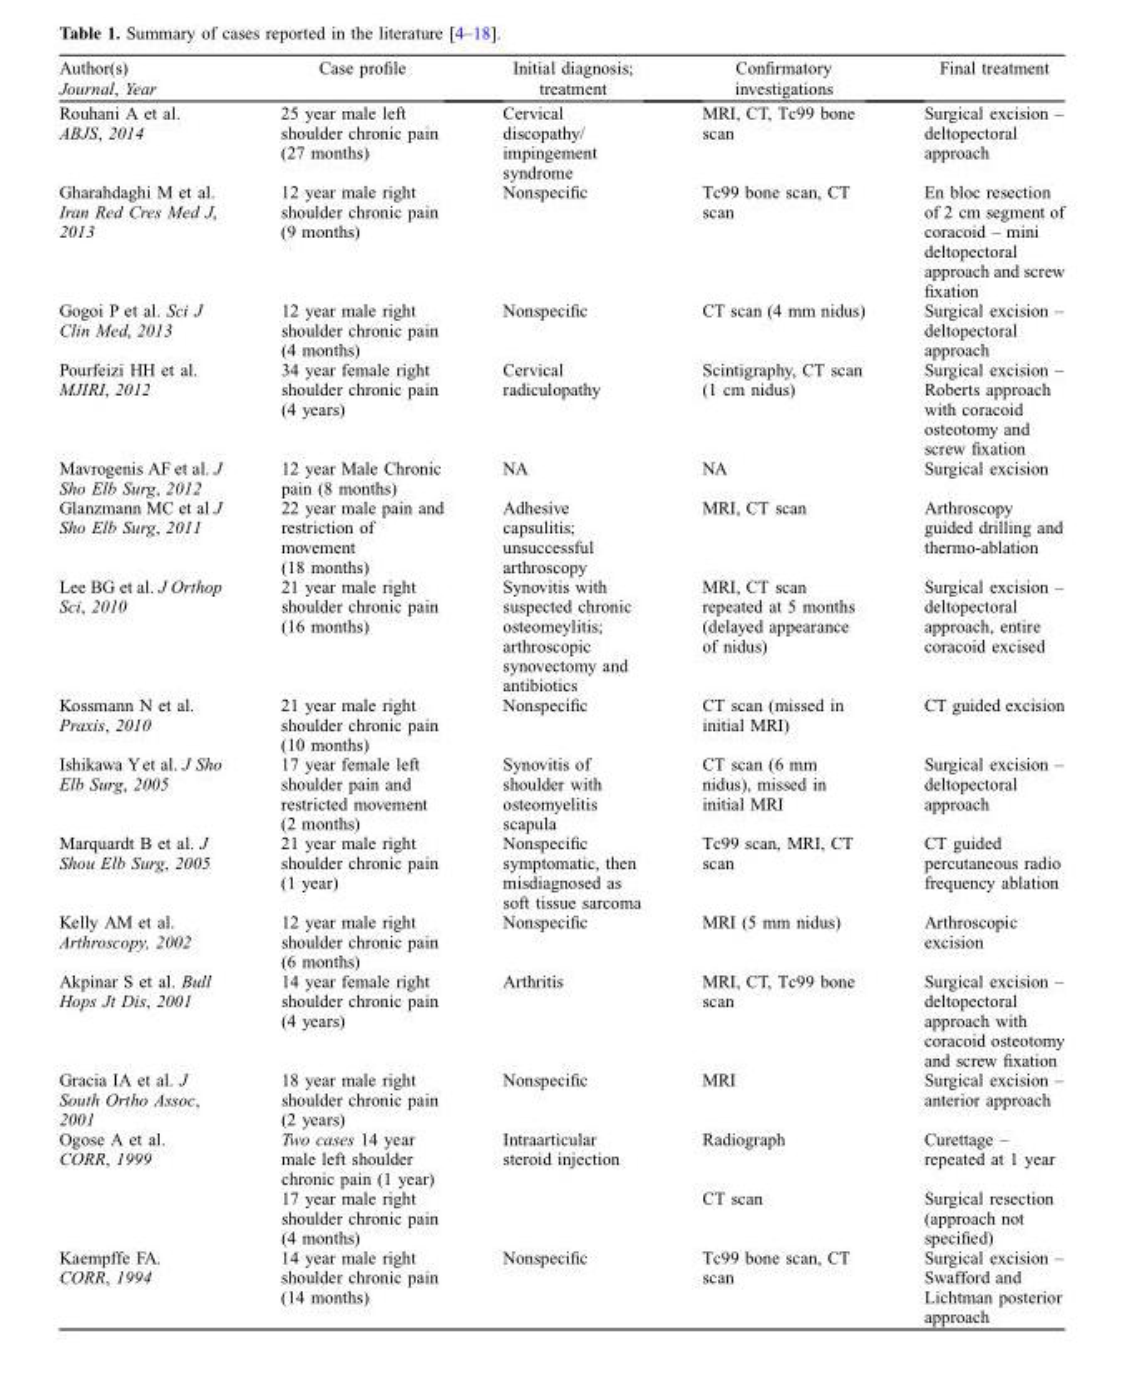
<table><thead><tr><td>Author(s) Journal, Year</td><td>Case profile</td><td>Initial diagnosis; treatment</td><td>Confirmatory investigations</td><td>Final treatment</td></tr></thead><tbody><tr><td>Rouhani A et al. ABJS, 2014</td><td>25 year male left shoulder chronic pain (27 months)</td><td>Cervical discopathy/ impingement syndrome</td><td>MRI, CT, Tc99 bone scan</td><td>Surgical excision – deltopectoral approach</td></tr><tr><td>Gharahdaghi M et al. Iran Red Cres Med J, 2013</td><td>12 year male right shoulder chronic pain (9 months)</td><td>Nonspecific</td><td>Tc99 bone scan, CT scan</td><td>En bloc resection of 2 cm segment of coracoid – mini deltopectoral approach and screw fixation</td></tr><tr><td>Gogoi P et al. Sci J Clin Med, 2013</td><td>12 year male right shoulder chronic pain (4 months)</td><td>Nonspecific</td><td>CT scan (4 mm nidus)</td><td>Surgical excision – deltopectoral approach</td></tr><tr><td>Pourfeizi HH et al. MJIRI, 2012</td><td>34 year female right shoulder chronic pain (4 years)</td><td>Cervical radiculopathy</td><td>Scintigraphy, CT scan (1 cm nidus)</td><td>Surgical excision – Roberts approach with coracoid osteotomy and screw fixation</td></tr><tr><td>Mavrogenis AF et al. J Sho Elb Surg, 2012</td><td>12 year Male Chronic pain (8 months)</td><td>NA</td><td>NA</td><td>Surgical excision</td></tr><tr><td>Glanzmann MC et al J Sho Elb Surg, 2011</td><td>22 year male pain and restriction of movement (18 months)</td><td>Adhesive capsulitis; unsuccessful arthroscopy</td><td>MRI, CT scan</td><td>Arthroscopy guided drilling and thermo-ablation</td></tr><tr><td>Lee BG et al. J Orthop Sci, 2010</td><td>21 year male right shoulder chronic pain (16 months)</td><td>Synovitis with suspected chronic osteomeylitis; arthroscopic synovectomy and antibiotics</td><td>MRI, CT scan repeated at 5 months (delayed appearance of nidus)</td><td>Surgical excision – deltopectoral approach, entire coracoid excised</td></tr><tr><td>Kossmann N et al. Praxis, 2010</td><td>21 year male right shoulder chronic pain (10 months)</td><td>Nonspecific</td><td>CT scan (missed in initial MRI)</td><td>CT guided excision</td></tr><tr><td>Ishikawa Yet al. J Sho Elb Surg, 2005</td><td>17 year female left shoulder pain and restricted movement (2 months)</td><td>Synovitis of shoulder with osteomyelitis scapula</td><td>CT scan (6 mm nidus), missed in initial MRI</td><td>Surgical excision – deltopectoral approach</td></tr><tr><td>Marquardt B et al. J Shou Elb Surg, 2005</td><td>21 year male right shoulder chronic pain (1 year)</td><td>Nonspecific symptomatic, then misdiagnosed as soft tissue sarcoma</td><td>Tc99 scan, MRI, CT scan</td><td>CT guided percutaneous radio frequency ablation</td></tr><tr><td>Kelly AM et al. Arthroscopy, 2002</td><td>12 year male right shoulder chronic pain (6 months)</td><td>Nonspecific</td><td>MRI (5 mm nidus)</td><td>Arthroscopic excision</td></tr><tr><td>Akpinar S et al. Bull Hops Jt Dis, 2001</td><td>14 year female right shoulder chronic pain (4 years)</td><td>Arthritis</td><td>MRI, CT, Tc99 bone scan</td><td>Surgical excision – deltopectoral approach with coracoid osteotomy and screw fixation</td></tr><tr><td>Gracia IA et al. J South Ortho Assoc, 2001</td><td>18 year male right shoulder chronic pain (2 years)</td><td>Nonspecific</td><td>MRI</td><td>Surgical excision – anterior approach</td></tr><tr><td rowspan="2">Ogose A et al. CORR, 1999</td><td>Two cases 14 year male left shoulder chronic pain (1 year)</td><td>Intraarticular steroid injection</td><td>Radiograph</td><td>Curettage – repeated at 1 year</td></tr><tr><td>17 year male right shoulder chronic pain (4 months)</td><td></td><td>CT scan</td><td>Surgical resection (approach not specified)</td></tr><tr><td>Kaempffe FA. CORR, 1994</td><td>14 year male right shoulder chronic pain (14 months)</td><td>Nonspecific</td><td>Tc99 bone scan, CT scan</td><td>Surgical excision – Swafford and Lichtman posterior approach</td></tr></tbody></table>